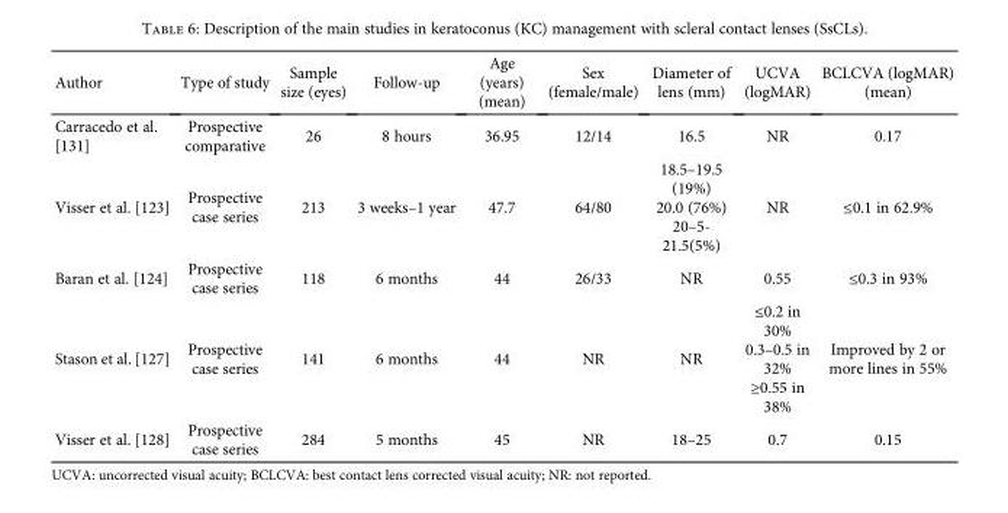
<table><thead><tr><td>Author</td><td>Type of study</td><td>Sample size (eyes)</td><td>Follow-up</td><td>Age (years) (mean)</td><td>Sex (female/male)</td><td>Diameter of lens (mm)</td><td>UCVA (logMAR)</td><td>BCLCVA (logMAR) (mean)</td></tr></thead><tbody><tr><td>Carracedo et al. [131]</td><td>Prospective comparative</td><td>26</td><td>8 hours</td><td>36.95</td><td>12/14</td><td>16.5</td><td>NR</td><td>0.17</td></tr><tr><td>Visser et al. [123]</td><td>Prospective case series</td><td>213</td><td>3 weeks–1 year</td><td>47.7</td><td>64/80</td><td>18.5–19.5 (19%) 20.0 (76%) 20–5- 21.5(5%)</td><td>NR</td><td>≤0.1 in 62.9%</td></tr><tr><td>Baran et al. [124]</td><td>Prospective case series</td><td>118</td><td>6 months</td><td>44</td><td>26/33</td><td>NR</td><td>0.55</td><td>≤0.3 in 93%</td></tr><tr><td>Stason et al. [127]</td><td>Prospective case series</td><td>141</td><td>6 months</td><td>44</td><td>NR</td><td>NR</td><td>≤0.2 in 30% 0.3–0.5 in 32% ≥0.55 in 38%</td><td>Improved by 2 or more lines in 55%</td></tr><tr><td>Visser et al. [128]</td><td>Prospective case series</td><td>284</td><td>5 months</td><td>45</td><td>NR</td><td>18–25</td><td>0.7</td><td>0.15</td></tr></tbody></table>